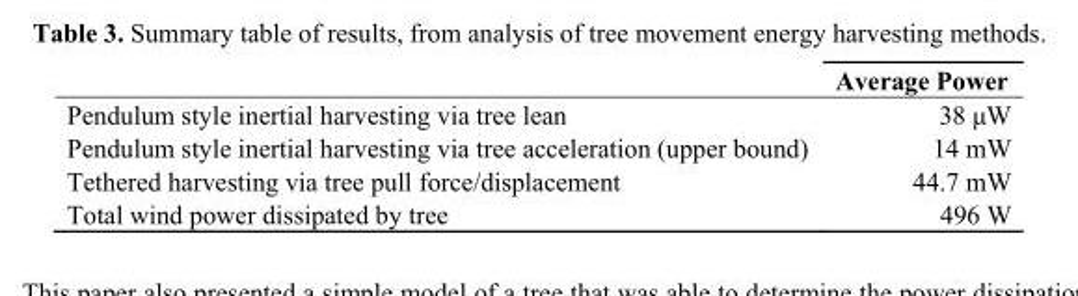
<table><thead><tr><td></td><td>Average Power</td></tr></thead><tbody><tr><td>Pendulum style inertial harvesting via tree lean</td><td>38 μW</td></tr><tr><td>Pendulum style inertial harvesting via tree acceleration (upper bound)</td><td>14 mW</td></tr><tr><td>Tethered harvesting via tree pull force/displacement</td><td>44.7 mW</td></tr><tr><td>Total wind power dissipated by tree</td><td>496 W</td></tr></tbody></table>